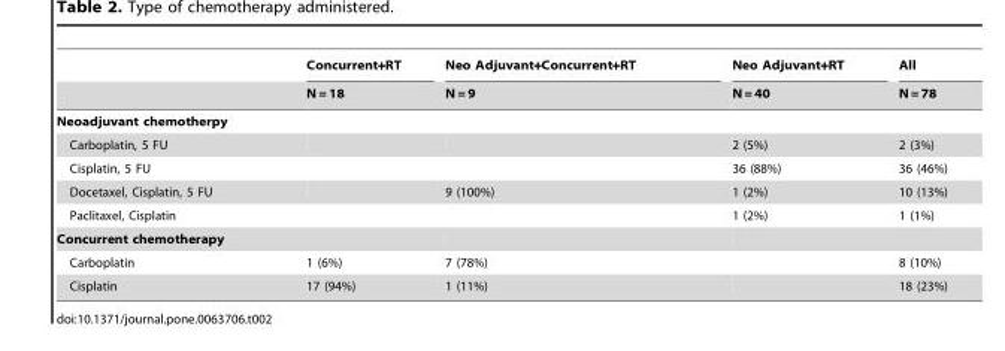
<table><thead><tr><td rowspan="2"></td><td rowspan="2">Concurrent+RT N = 18</td><td rowspan="2">Neo Adjuvant+Concurrent+RT N = 9</td><td rowspan="2">Neo Adjuvant+RT N = 40</td><td rowspan="2">All N = 78</td></tr><tr></tr></thead><tbody><tr><td colspan="5">Neoadjuvant chemotherpy</td></tr><tr><td>Carboplatin, 5 FU</td><td></td><td></td><td>2 (5%)</td><td>2 (3%)</td></tr><tr><td>Cisplatin, 5 FU</td><td></td><td></td><td>36 (88%)</td><td>36 (46%)</td></tr><tr><td>Docetaxel, Cisplatin, 5 FU</td><td></td><td>9 (100%)</td><td>1 (2%)</td><td>10 (13%)</td></tr><tr><td>Paclitaxel, Cisplatin</td><td></td><td></td><td>1 (2%)</td><td>1 (1%)</td></tr><tr><td colspan="5">Concurrent chemotherapy</td></tr><tr><td>Carboplatin</td><td>1 (6%)</td><td>7 (78%)</td><td></td><td>8 (10%)</td></tr><tr><td>Cisplatin</td><td>17 (94%)</td><td>1 (11%)</td><td></td><td>18 (23%)</td></tr></tbody></table>